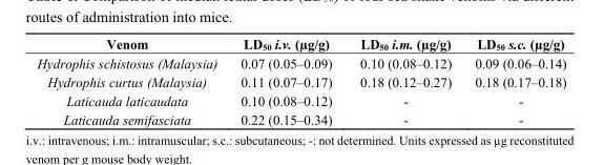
<table><thead><tr><td>Venom</td><td>LD<sub>50</sub> i.v. (µg/g)</td><td>LD<sub>50</sub> i.m. (µg/g)</td><td>LD<sub>50</sub> s.c. (µg/g)</td></tr></thead><tbody><tr><td>Hydrophis schistosus (Malaysia)</td><td>0.07 (0.05–0.09)</td><td>0.10 (0.08–0.12)</td><td>0.09 (0.06–0.14)</td></tr><tr><td>Hydrophis curtus (Malaysia)</td><td>0.11 (0.07–0.17)</td><td>0.18 (0.12–0.27)</td><td>0.18 (0.17–0.18)</td></tr><tr><td>Laticauda laticaudata</td><td>0.10 (0.08–0.12)</td><td>-</td><td>-</td></tr><tr><td>Laticauda semifasciata</td><td>0.22 (0.15–0.34)</td><td>-</td><td>-</td></tr></tbody></table>